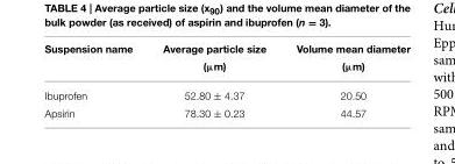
<table><thead><tr><td>Suspension name</td><td>Average particle size (µm)</td><td>Volume mean diameter (µm)</td></tr></thead><tbody><tr><td>Ibuprofen</td><td>52.80 ± 4.37</td><td>20.50</td></tr><tr><td>Apsirin</td><td>78.30 ± 0.23</td><td>44.57</td></tr></tbody></table>